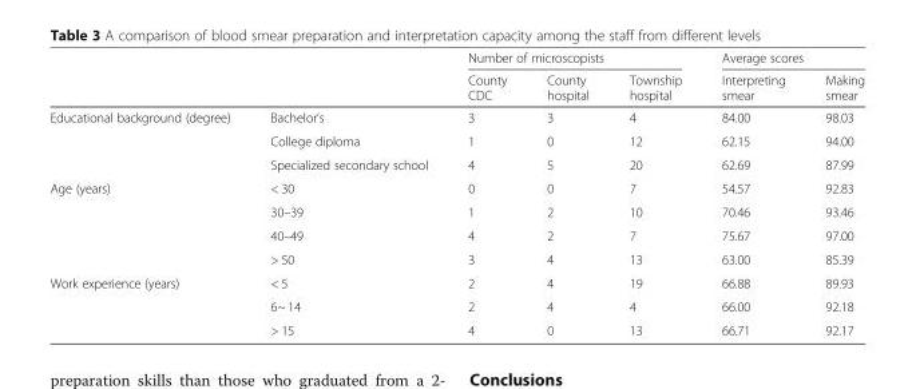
<table><thead><tr><td rowspan="2"></td><td rowspan="2"></td><td colspan="3">Number of microscopists</td><td colspan="2">Average scores</td></tr><tr><td>County CDC</td><td>County hospital</td><td>Township hospital</td><td>Interpreting smear</td><td>Making smear</td></tr></thead><tbody><tr><td rowspan="3">Educational background (degree)</td><td>Bachelor’s</td><td>3</td><td>3</td><td>4</td><td>84.00</td><td>98.03</td></tr><tr><td>College diploma</td><td>1</td><td>0</td><td>12</td><td>62.15</td><td>94.00</td></tr><tr><td>Specialized secondary school</td><td>4</td><td>5</td><td>20</td><td>62.69</td><td>87.99</td></tr><tr><td rowspan="4">Age (years)</td><td>&lt; 30</td><td>0</td><td>0</td><td>7</td><td>54.57</td><td>92.83</td></tr><tr><td>30–39</td><td>1</td><td>2</td><td>10</td><td>70.46</td><td>93.46</td></tr><tr><td>40–49</td><td>4</td><td>2</td><td>7</td><td>75.67</td><td>97.00</td></tr><tr><td>&gt; 50</td><td>3</td><td>4</td><td>13</td><td>63.00</td><td>85.39</td></tr><tr><td rowspan="3">Work experience (years)</td><td>&lt; 5</td><td>2</td><td>4</td><td>19</td><td>66.88</td><td>89.93</td></tr><tr><td>6~ 14</td><td>2</td><td>4</td><td>4</td><td>66.00</td><td>92.18</td></tr><tr><td>&gt; 15</td><td>4</td><td>0</td><td>13</td><td>66.71</td><td>92.17</td></tr></tbody></table>